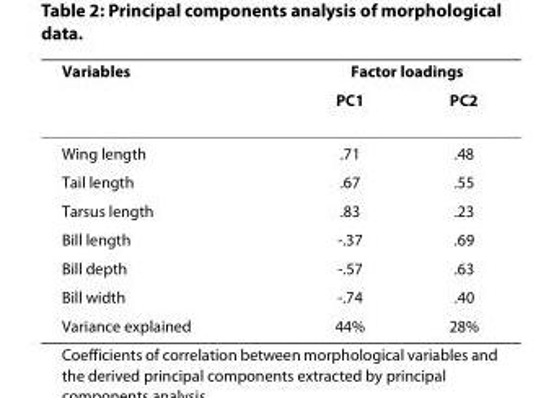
<table><thead><tr><td rowspan="2">Variables</td><td colspan="2">Factor loadings</td></tr><tr><td>PC1</td><td>PC2</td></tr></thead><tbody><tr><td>Wing length</td><td>.71</td><td>.48</td></tr><tr><td>Tail length</td><td>.67</td><td>.55</td></tr><tr><td>Tarsus length</td><td>.83</td><td>.23</td></tr><tr><td>Bill length</td><td>-.37</td><td>.69</td></tr><tr><td>Bill depth</td><td>-.57</td><td>.63</td></tr><tr><td>Bill width</td><td>-.74</td><td>.40</td></tr><tr><td>Variance explained</td><td>44%</td><td>28%</td></tr></tbody></table>